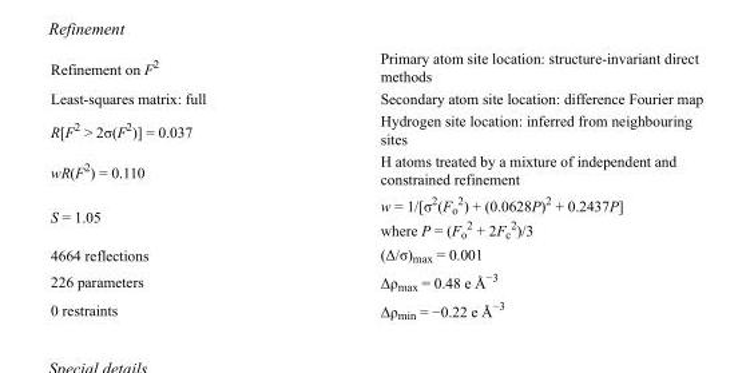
<table><tbody><tr><td>Refinement on F<sup>2</sup></td><td>Primary atom site location: structure-invariant direct methods</td></tr><tr><td>Least-squares matrix: full</td><td>Secondary atom site location: difference Fourier map</td></tr><tr><td>R[F<sup>2</sup> &gt; 2σ(F<sup>2</sup>)] = 0.037</td><td>Hydrogen site location: inferred from neighbouring sites</td></tr><tr><td>wR(F<sup>2</sup>) = 0.110</td><td>H atoms treated by a mixture of independent and constrained refinement</td></tr><tr><td>S = 1.05</td><td>w = 1/[σ<sup>2</sup>(F<sub>o</sub> <sup>2</sup>) + (0.0628P)<sup>2</sup> + 0.2437P] where P = (F<sub>o</sub> <sup>2</sup> + 2F<sub>c</sub> <sup>2</sup>)/3</td></tr><tr><td>4664 reflections</td><td>(Δ/σ)<sub>max</sub> = 0.001</td></tr><tr><td>226 parameters</td><td>Δρ<sub>max</sub> = 0.48 e Å<sup>−3</sup></td></tr><tr><td>0 restraints</td><td>Δρ<sub>min</sub> = −0.22 e Å<sup>−3</sup></td></tr></tbody></table>